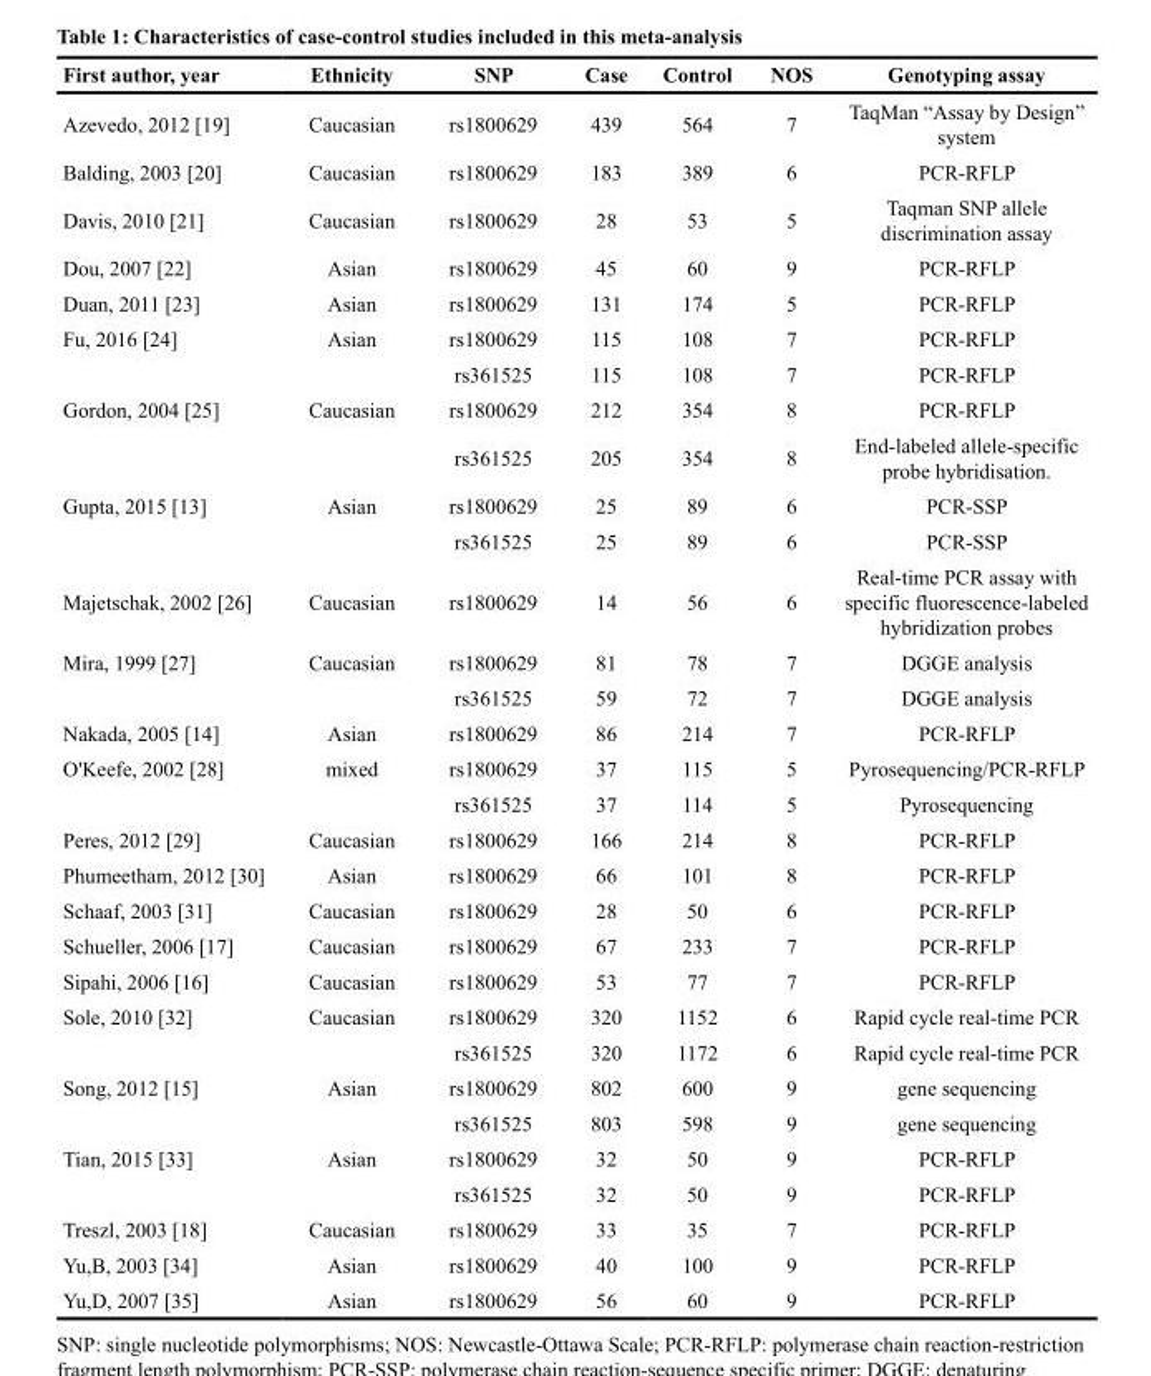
<table><thead><tr><td>First author, year</td><td>Ethnicity</td><td>SNP</td><td>Case</td><td>Control</td><td>NOS</td><td>Genotyping assay</td></tr></thead><tbody><tr><td>Azevedo, 2012 [19]</td><td>Caucasian</td><td>rs1800629</td><td>439</td><td>564</td><td>7</td><td>TaqMan “Assay by Design” system</td></tr><tr><td>Balding, 2003 [20]</td><td>Caucasian</td><td>rs1800629</td><td>183</td><td>389</td><td>6</td><td>PCR-RFLP</td></tr><tr><td>Davis, 2010 [21]</td><td>Caucasian</td><td>rs1800629</td><td>28</td><td>53</td><td>5</td><td>Taqman SNP allele discrimination assay</td></tr><tr><td>Dou, 2007 [22]</td><td>Asian</td><td>rs1800629</td><td>45</td><td>60</td><td>9</td><td>PCR-RFLP</td></tr><tr><td>Duan, 2011 [23]</td><td>Asian</td><td>rs1800629</td><td>131</td><td>174</td><td>5</td><td>PCR-RFLP</td></tr><tr><td rowspan="2">Fu, 2016 [24]</td><td>Asian</td><td>rs1800629</td><td>115</td><td>108</td><td>7</td><td>PCR-RFLP</td></tr><tr><td></td><td>rs361525</td><td>115</td><td>108</td><td>7</td><td>PCR-RFLP</td></tr><tr><td rowspan="2">Gordon, 2004 [25]</td><td>Caucasian</td><td>rs1800629</td><td>212</td><td>354</td><td>8</td><td>PCR-RFLP</td></tr><tr><td></td><td>rs361525</td><td>205</td><td>354</td><td>8</td><td>End-labeled allele-specific probe hybridisation.</td></tr><tr><td rowspan="2">Gupta, 2015 [13]</td><td>Asian</td><td>rs1800629</td><td>25</td><td>89</td><td>6</td><td>PCR-SSP</td></tr><tr><td></td><td>rs361525</td><td>25</td><td>89</td><td>6</td><td>PCR-SSP</td></tr><tr><td>Majetschak, 2002 [26]</td><td>Caucasian</td><td>rs1800629</td><td>14</td><td>56</td><td>6</td><td>Real-time PCR assay with specific fluorescence-labeled hybridization probes</td></tr><tr><td rowspan="2">Mira, 1999 [27]</td><td>Caucasian</td><td>rs1800629</td><td>81</td><td>78</td><td>7</td><td>DGGE analysis</td></tr><tr><td></td><td>rs361525</td><td>59</td><td>72</td><td>7</td><td>DGGE analysis</td></tr><tr><td>Nakada, 2005 [14]</td><td>Asian</td><td>rs1800629</td><td>86</td><td>214</td><td>7</td><td>PCR-RFLP</td></tr><tr><td rowspan="2">O&#x27;Keefe, 2002 [28]</td><td>mixed</td><td>rs1800629</td><td>37</td><td>115</td><td>5</td><td>Pyrosequencing/PCR-RFLP</td></tr><tr><td></td><td>rs361525</td><td>37</td><td>114</td><td>5</td><td>Pyrosequencing</td></tr><tr><td>Peres, 2012 [29]</td><td>Caucasian</td><td>rs1800629</td><td>166</td><td>214</td><td>8</td><td>PCR-RFLP</td></tr><tr><td>Phumeetham, 2012 [30]</td><td>Asian</td><td>rs1800629</td><td>66</td><td>101</td><td>8</td><td>PCR-RFLP</td></tr><tr><td>Schaaf, 2003 [31]</td><td>Caucasian</td><td>rs1800629</td><td>28</td><td>50</td><td>6</td><td>PCR-RFLP</td></tr><tr><td>Schueller, 2006 [17]</td><td>Caucasian</td><td>rs1800629</td><td>67</td><td>233</td><td>7</td><td>PCR-RFLP</td></tr><tr><td>Sipahi, 2006 [16]</td><td>Caucasian</td><td>rs1800629</td><td>53</td><td>77</td><td>7</td><td>PCR-RFLP</td></tr><tr><td rowspan="2">Sole, 2010 [32]</td><td>Caucasian</td><td>rs1800629</td><td>320</td><td>1152</td><td>6</td><td>Rapid cycle real-time PCR</td></tr><tr><td></td><td>rs361525</td><td>320</td><td>1172</td><td>6</td><td>Rapid cycle real-time PCR</td></tr><tr><td rowspan="2">Song, 2012 [15]</td><td>Asian</td><td>rs1800629</td><td>802</td><td>600</td><td>9</td><td>gene sequencing</td></tr><tr><td></td><td>rs361525</td><td>803</td><td>598</td><td>9</td><td>gene sequencing</td></tr><tr><td rowspan="2">Tian, 2015 [33]</td><td>Asian</td><td>rs1800629</td><td>32</td><td>50</td><td>9</td><td>PCR-RFLP</td></tr><tr><td></td><td>rs361525</td><td>32</td><td>50</td><td>9</td><td>PCR-RFLP</td></tr><tr><td>Treszl, 2003 [18]</td><td>Caucasian</td><td>rs1800629</td><td>33</td><td>35</td><td>7</td><td>PCR-RFLP</td></tr><tr><td>Yu,B, 2003 [34]</td><td>Asian</td><td>rs1800629</td><td>40</td><td>100</td><td>9</td><td>PCR-RFLP</td></tr><tr><td>Yu,D, 2007 [35]</td><td>Asian</td><td>rs1800629</td><td>56</td><td>60</td><td>9</td><td>PCR-RFLP</td></tr></tbody></table>